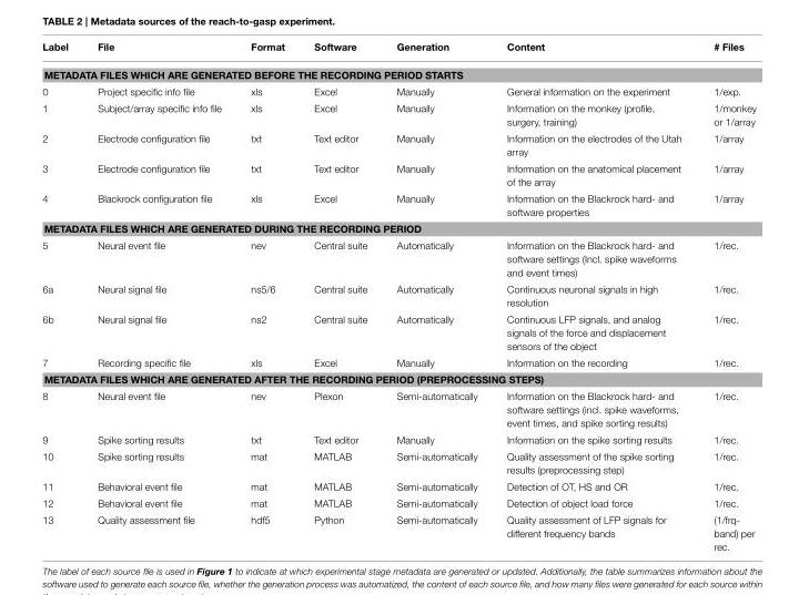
<table><thead><tr><td>Label</td><td>File</td><td>Format</td><td>Software</td><td>Generation</td><td>Content</td><td># Files</td></tr></thead><tbody><tr><td colspan="7">METADATA FILES WHICH ARE GENERATED BEFORE THE RECORDING PERIOD STARTS</td></tr><tr><td>0</td><td>Project specific info file</td><td>xls</td><td>Excel</td><td>Manually</td><td>General information on the experiment</td><td>1/exp.</td></tr><tr><td>1</td><td>Subject/array specific info file</td><td>xls</td><td>Excel</td><td>Manually</td><td>Information on the monkey (profile, surgery, training)</td><td>1/monkey or 1/array</td></tr><tr><td>2</td><td>Electrode configuration file</td><td>txt</td><td>Text editor</td><td>Manually</td><td>Information on the electrodes of the Utah array</td><td>1/array</td></tr><tr><td>3</td><td>Electrode configuration file</td><td>txt</td><td>Text editor</td><td>Manually</td><td>Information on the anatomical placement of the array</td><td>1/array</td></tr><tr><td>4</td><td>Blackrock configuration file</td><td>xls</td><td>Excel</td><td>Manually</td><td>Information on the Blackrock hard- and software properties</td><td>1/array</td></tr><tr><td colspan="7">METADATA FILES WHICH ARE GENERATED DURING THE RECORDING PERIOD</td></tr><tr><td>5</td><td>Neural event file</td><td>nev</td><td>Central suite</td><td>Automatically</td><td>Information on the Blackrock hard- and software settings (Incl. spike waveforms and event times)</td><td>1/rec.</td></tr><tr><td>6a</td><td>Neural signal file</td><td>ns5/6</td><td>Central suite</td><td>Automatically</td><td>Continuous neuronal signals in high resolution</td><td>1/rec.</td></tr><tr><td>6b</td><td>Neural signal file</td><td>ns2</td><td>Central suite</td><td>Automatically</td><td>Continuous LFP signals, and analog signals of the force and displacement sensors of the object</td><td>1/rec.</td></tr><tr><td>7</td><td>Recording specific file</td><td>xls</td><td>Excel</td><td>Manually</td><td>Information on the recording</td><td>1/rec.</td></tr><tr><td colspan="7">METADATA FILES WHICH ARE GENERATED AFTER THE RECORDING PERIOD (PREPROCESSING STEPS)</td></tr><tr><td>8</td><td>Neural event file</td><td>nev</td><td>Plexon</td><td>Semi-automatically</td><td>Information on the Blackrock hard- and software settings (incl. spike waveforms, event times, and spike sorting results)</td><td>1/rec.</td></tr><tr><td>9</td><td>Spike sorting results</td><td>txt</td><td>Text editor</td><td>Manually</td><td>Information on the spike sorting results</td><td>1/rec.</td></tr><tr><td>10</td><td>Spike sorting results</td><td>mat</td><td>MATLAB</td><td>Semi-automatically</td><td>Quality assessment of the spike sorting results (preprocessing step)</td><td>1/rec.</td></tr><tr><td>11</td><td>Behavioral event file</td><td>mat</td><td>MATLAB</td><td>Semi-automatically</td><td>Detection of OT, HS and OR</td><td>1/rec.</td></tr><tr><td>12</td><td>Behavioral event file</td><td>mat</td><td>MATLAB</td><td>Semi-automatically</td><td>Detection of object load force</td><td>1/rec.</td></tr><tr><td>13</td><td>Quality assessment file</td><td>hdf5</td><td>Python</td><td>Semi-automatically</td><td>Quality assessment of LFP signals for different frequency bands</td><td>(1/frq- band) per rec.</td></tr></tbody></table>